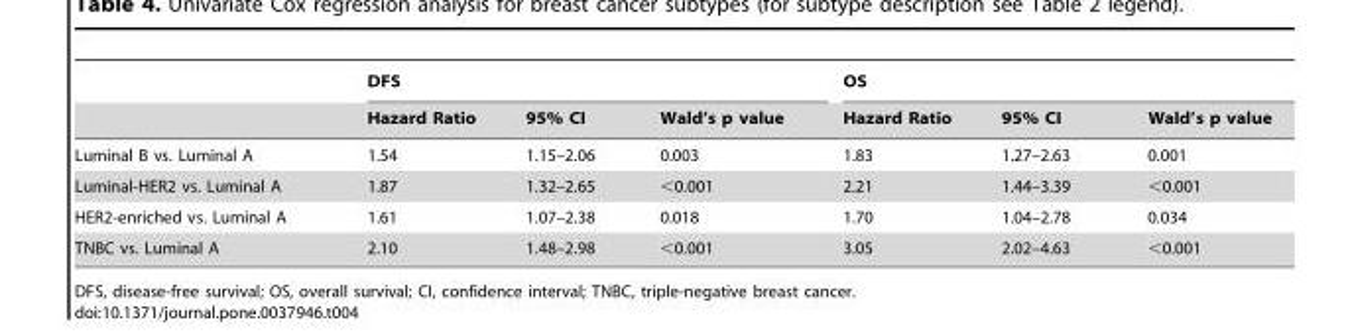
<table><thead><tr><td rowspan="2"></td><td colspan="3">DFS</td><td colspan="3">OS</td></tr><tr><td>Hazard Ratio</td><td>95% CI</td><td>Wald’s p value</td><td>Hazard Ratio</td><td>95% CI</td><td>Wald’s p value</td></tr></thead><tbody><tr><td>Luminal B vs. Luminal A</td><td>1.54</td><td>1.15–2.06</td><td>0.003</td><td>1.83</td><td>1.27–2.63</td><td>0.001</td></tr><tr><td>Luminal-HER2 vs. Luminal A</td><td>1.87</td><td>1.32–2.65</td><td>&lt;0.001</td><td>2.21</td><td>1.44–3.39</td><td>&lt;0.001</td></tr><tr><td>HER2-enriched vs. Luminal A</td><td>1.61</td><td>1.07–2.38</td><td>0.018</td><td>1.70</td><td>1.04–2.78</td><td>0.034</td></tr><tr><td>TNBC vs. Luminal A</td><td>2.10</td><td>1.48–2.98</td><td>&lt;0.001</td><td>3.05</td><td>2.02–4.63</td><td>&lt;0.001</td></tr></tbody></table>